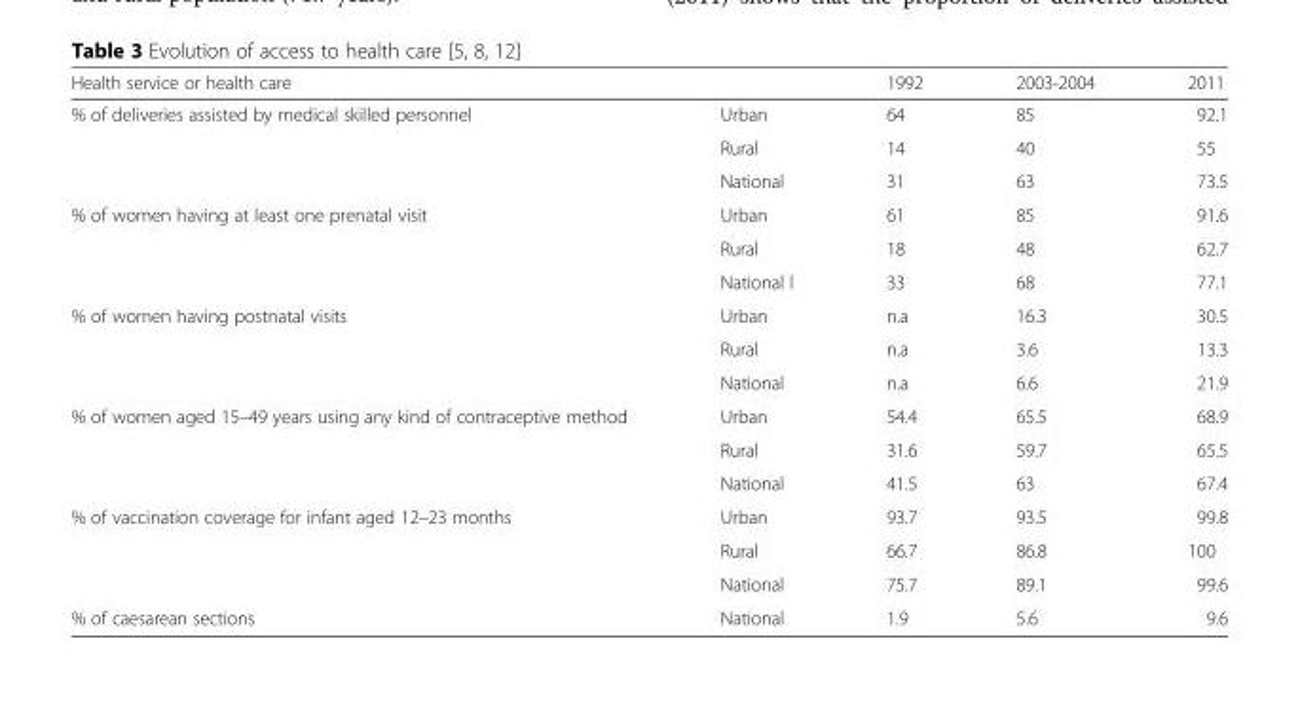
<table><thead><tr><td>Health service or health care</td><td></td><td>1992</td><td>2003-2004</td><td>2011</td></tr></thead><tbody><tr><td rowspan="3">% of deliveries assisted by medical skilled personnel</td><td>Urban</td><td>64</td><td>85</td><td>92.1</td></tr><tr><td>Rural</td><td>14</td><td>40</td><td>55</td></tr><tr><td>National</td><td>31</td><td>63</td><td>73.5</td></tr><tr><td rowspan="3">% of women having at least one prenatal visit</td><td>Urban</td><td>61</td><td>85</td><td>91.6</td></tr><tr><td>Rural</td><td>18</td><td>48</td><td>62.7</td></tr><tr><td>National l</td><td>33</td><td>68</td><td>77.1</td></tr><tr><td rowspan="3">% of women having postnatal visits</td><td>Urban</td><td>n.a</td><td>16.3</td><td>30.5</td></tr><tr><td>Rural</td><td>n.a</td><td>3.6</td><td>13.3</td></tr><tr><td>National</td><td>n.a</td><td>6.6</td><td>21.9</td></tr><tr><td rowspan="3">% of women aged 15–49 years using any kind of contraceptive method</td><td>Urban</td><td>54.4</td><td>65.5</td><td>68.9</td></tr><tr><td>Rural</td><td>31.6</td><td>59.7</td><td>65.5</td></tr><tr><td>National</td><td>41.5</td><td>63</td><td>67.4</td></tr><tr><td rowspan="3">% of vaccination coverage for infant aged 12–23 months</td><td>Urban</td><td>93.7</td><td>93.5</td><td>99.8</td></tr><tr><td>Rural</td><td>66.7</td><td>86.8</td><td>100</td></tr><tr><td>National</td><td>75.7</td><td>89.1</td><td>99.6</td></tr><tr><td>% of caesarean sections</td><td>National</td><td>1.9</td><td>5.6</td><td>9.6</td></tr></tbody></table>